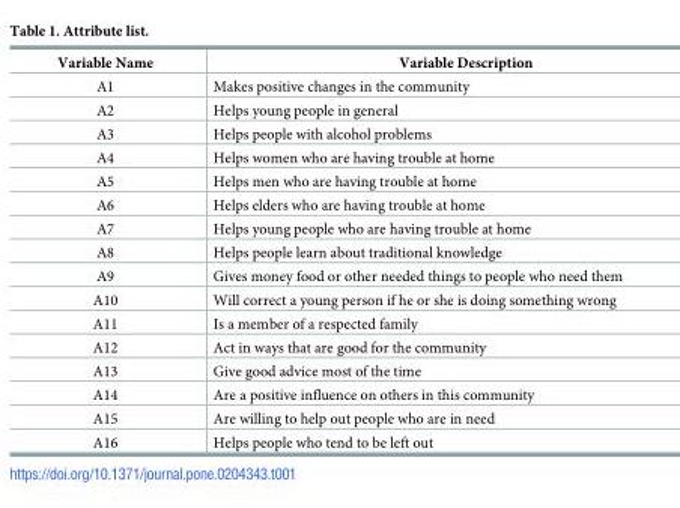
<table><thead><tr><td>Variable Name</td><td>Variable Description</td></tr></thead><tbody><tr><td>A1</td><td>Makes positive changes in the community</td></tr><tr><td>A2</td><td>Helps young people in general</td></tr><tr><td>A3</td><td>Helps people with alcohol problems</td></tr><tr><td>A4</td><td>Helps women who are having trouble at home</td></tr><tr><td>A5</td><td>Helps men who are having trouble at home</td></tr><tr><td>A6</td><td>Helps elders who are having trouble at home</td></tr><tr><td>A7</td><td>Helps young people who are having trouble at home</td></tr><tr><td>A8</td><td>Helps people learn about traditional knowledge</td></tr><tr><td>A9</td><td>Gives money food or other needed things to people who need them</td></tr><tr><td>A10</td><td>Will correct a young person if he or she is doing something wrong</td></tr><tr><td>A11</td><td>Is a member of a respected family</td></tr><tr><td>A12</td><td>Act in ways that are good for the community</td></tr><tr><td>A13</td><td>Give good advice most of the time</td></tr><tr><td>A14</td><td>Are a positive influence on others in this community</td></tr><tr><td>A15</td><td>Are willing to help out people who are in need</td></tr><tr><td>A16</td><td>Helps people who tend to be left out</td></tr></tbody></table>